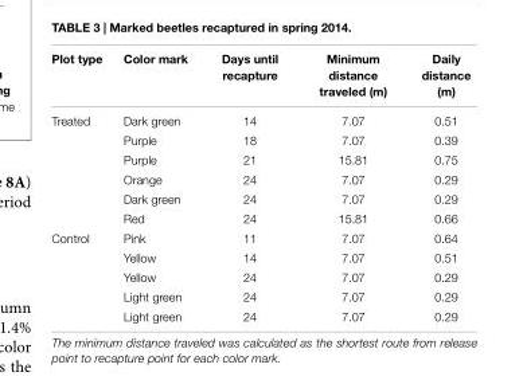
<table><thead><tr><td>Plot type</td><td>Color mark</td><td>Days until recapture</td><td>Minimum distance traveled (m)</td><td>Daily distance (m)</td></tr></thead><tbody><tr><td rowspan="6">Treated</td><td>Dark green</td><td>14</td><td>7.07</td><td>0.51</td></tr><tr><td>Purple</td><td>18</td><td>7.07</td><td>0.39</td></tr><tr><td>Purple</td><td>21</td><td>15.81</td><td>0.75</td></tr><tr><td>Orange</td><td>24</td><td>7.07</td><td>0.29</td></tr><tr><td>Dark green</td><td>24</td><td>7.07</td><td>0.29</td></tr><tr><td>Red</td><td>24</td><td>15.81</td><td>0.66</td></tr><tr><td rowspan="5">Control</td><td>Pink</td><td>11</td><td>7.07</td><td>0.64</td></tr><tr><td>Yellow</td><td>14</td><td>7.07</td><td>0.51</td></tr><tr><td>Yellow</td><td>24</td><td>7.07</td><td>0.29</td></tr><tr><td>Light green</td><td>24</td><td>7.07</td><td>0.29</td></tr><tr><td>Light green</td><td>24</td><td>7.07</td><td>0.29</td></tr></tbody></table>